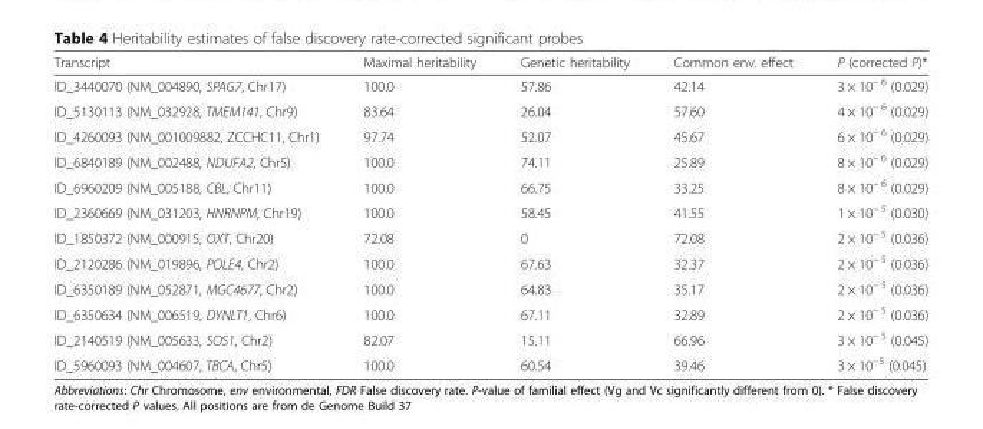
<table><thead><tr><td>Transcript</td><td>Maximal heritability</td><td>Genetic heritability</td><td>Common env. effect</td><td>P (corrected P)*</td></tr></thead><tbody><tr><td>ID_3440070 (NM_004890, SPAG7, Chr17)</td><td>100.0</td><td>57.86</td><td>42.14</td><td>3 × 10<sup>− 6</sup> (0.029)</td></tr><tr><td>ID_5130113 (NM_032928, TMEM141, Chr9)</td><td>83.64</td><td>26.04</td><td>57.60</td><td>4 × 10<sup>− 6</sup> (0.029)</td></tr><tr><td>ID_4260093 (NM_001009882, ZCCHC11, Chr1)</td><td>97.74</td><td>52.07</td><td>45.67</td><td>6 × 10<sup>− 6</sup> (0.029)</td></tr><tr><td>ID_6840189 (NM_002488, NDUFA2, Chr5)</td><td>100.0</td><td>74.11</td><td>25.89</td><td>8 × 10<sup>− 6</sup> (0.029)</td></tr><tr><td>ID_6960209 (NM_005188, CBL, Chr11)</td><td>100.0</td><td>66.75</td><td>33.25</td><td>8 × 10<sup>− 6</sup> (0.029)</td></tr><tr><td>ID_2360669 (NM_031203, HNRNPM, Chr19)</td><td>100.0</td><td>58.45</td><td>41.55</td><td>1 × 10<sup>− 5</sup> (0.030)</td></tr><tr><td>ID_1850372 (NM_000915, OXT, Chr20)</td><td>72.08</td><td>0</td><td>72.08</td><td>2 × 10<sup>− 5</sup> (0.036)</td></tr><tr><td>ID_2120286 (NM_019896, POLE4, Chr2)</td><td>100.0</td><td>67.63</td><td>32.37</td><td>2 × 10<sup>− 5</sup> (0.036)</td></tr><tr><td>ID_6350189 (NM_052871, MGC4677, Chr2)</td><td>100.0</td><td>64.83</td><td>35.17</td><td>2 × 10<sup>− 5</sup> (0.036)</td></tr><tr><td>ID_6350634 (NM_006519, DYNLT1, Chr6)</td><td>100.0</td><td>67.11</td><td>32.89</td><td>2 × 10<sup>− 5</sup> (0.036)</td></tr><tr><td>ID_2140519 (NM_005633, SOS1, Chr2)</td><td>82.07</td><td>15.11</td><td>66.96</td><td>3 × 10<sup>− 5</sup> (0.045)</td></tr><tr><td>ID_5960093 (NM_004607, TBCA, Chr5)</td><td>100.0</td><td>60.54</td><td>39.46</td><td>3 × 10<sup>−5</sup> (0.045)</td></tr></tbody></table>